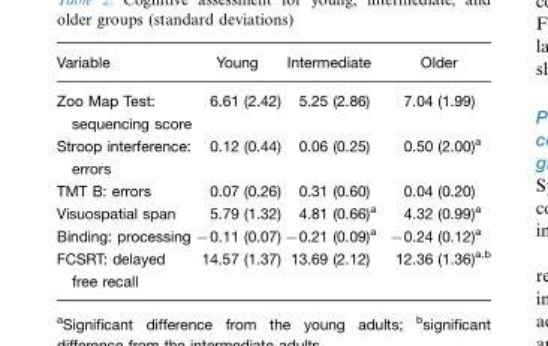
<table><thead><tr><td>Variable</td><td>Young</td><td>Intermediate</td><td>Older</td></tr></thead><tbody><tr><td>Zoo Map Test: sequencing score</td><td>6.61 (2.42)</td><td>5.25 (2.86)</td><td>7.04 (1.99)</td></tr><tr><td>Stroop interference: errors</td><td>0.12 (0.44)</td><td>0.06 (0.25)</td><td>0.50 (2.00)<sup>a</sup></td></tr><tr><td>TMT B: errors</td><td>0.07 (0.26)</td><td>0.31 (0.60)</td><td>0.04 (0.20)</td></tr><tr><td>Visuospatial span</td><td>5.79 (1.32)</td><td>4.81 (0.66)<sup>a</sup></td><td>4.32 (0.99)<sup>a</sup></td></tr><tr><td>Binding: processing</td><td>−0.11 (0.07)</td><td>−0.21 (0.09)<sup>a</sup></td><td>−0.24 (0.12)<sup>a</sup></td></tr><tr><td>FCSRT: delayed free recall</td><td>14.57 (1.37)</td><td>13.69 (2.12)</td><td>12.36 (1.36)a,b</td></tr></tbody></table>